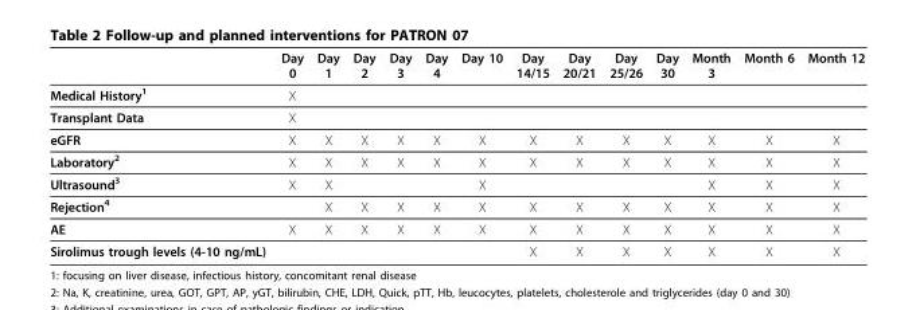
<table><thead><tr><td></td><td>Day 0</td><td>Day 1</td><td>Day 2</td><td>Day 3</td><td>Day 4</td><td>Day 10</td><td>Day 14/15</td><td>Day 20/21</td><td>Day 25/26</td><td>Day 30</td><td>Month 3</td><td>Month 6</td><td>Month 12</td></tr></thead><tbody><tr><td>Medical History<sup>1</sup></td><td>X</td><td></td><td></td><td></td><td></td><td></td><td></td><td></td><td></td><td></td><td></td><td></td><td></td></tr><tr><td>Transplant Data</td><td>X</td><td></td><td></td><td></td><td></td><td></td><td></td><td></td><td></td><td></td><td></td><td></td><td></td></tr><tr><td>eGFR</td><td>X</td><td>X</td><td>X</td><td>X</td><td>X</td><td>X</td><td>X</td><td>X</td><td>X</td><td>X</td><td>X</td><td>X</td><td>X</td></tr><tr><td>Laboratory<sup>2</sup></td><td>X</td><td>X</td><td>X</td><td>X</td><td>X</td><td>X</td><td>X</td><td>X</td><td>X</td><td>X</td><td>X</td><td>X</td><td>X</td></tr><tr><td>Ultrasound<sup>3</sup></td><td>X</td><td>X</td><td></td><td></td><td></td><td>X</td><td></td><td></td><td></td><td></td><td>X</td><td>X</td><td>X</td></tr><tr><td>Rejection<sup>4</sup></td><td></td><td>X</td><td>X</td><td>X</td><td>X</td><td>X</td><td>X</td><td>X</td><td>X</td><td>X</td><td>X</td><td>X</td><td>X</td></tr><tr><td>AE</td><td>X</td><td>X</td><td>X</td><td>X</td><td>X</td><td>X</td><td>X</td><td>X</td><td>X</td><td>X</td><td>X</td><td>X</td><td>X</td></tr><tr><td>Sirolimus trough levels (4-10 ng/mL)</td><td></td><td></td><td></td><td></td><td></td><td></td><td>X</td><td>X</td><td>X</td><td>X</td><td>X</td><td>X</td><td>X</td></tr></tbody></table>